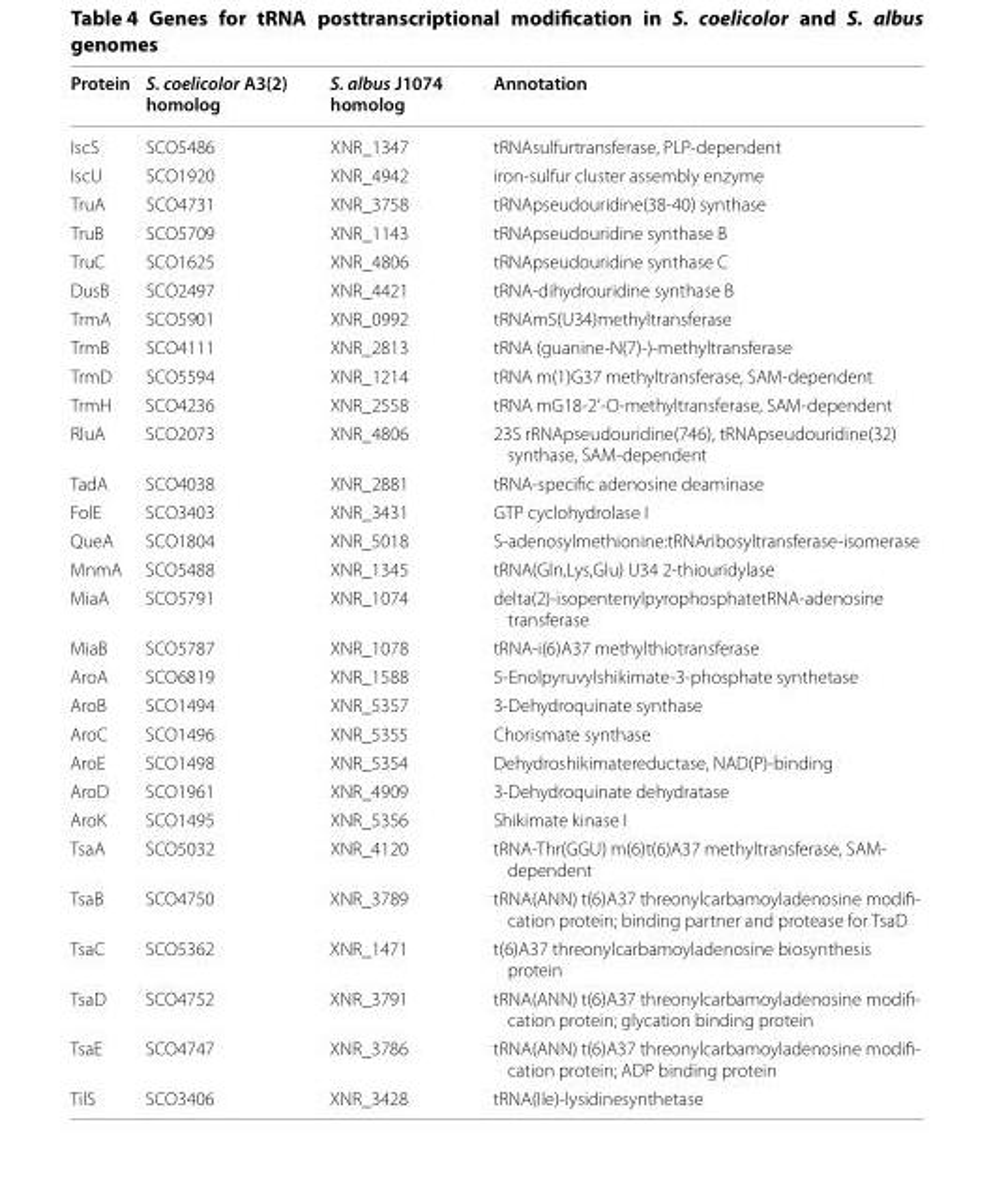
<table><thead><tr><td>Protein</td><td>S. coelicolor A3(2) homolog</td><td>S. albus J1074 homolog</td><td>Annotation</td></tr></thead><tbody><tr><td>IscS</td><td>SCO5486</td><td>XNR_1347</td><td>tRNAsulfurtransferase, PLP-dependent</td></tr><tr><td>IscU</td><td>SCO1920</td><td>XNR_4942</td><td>iron-sulfur cluster assembly enzyme</td></tr><tr><td>TruA</td><td>SCO4731</td><td>XNR_3758</td><td>tRNApseudouridine(38-40) synthase</td></tr><tr><td>TruB</td><td>SCO5709</td><td>XNR_1143</td><td>tRNApseudouridine synthase B</td></tr><tr><td>TruC</td><td>SCO1625</td><td>XNR_4806</td><td>tRNApseudouridine synthase C</td></tr><tr><td>DusB</td><td>SCO2497</td><td>XNR_4421</td><td>tRNA-dihydrouridine synthase B</td></tr><tr><td>TrmA</td><td>SCO5901</td><td>XNR_0992</td><td>tRNAm5(U34)methyltransferase</td></tr><tr><td>TrmB</td><td>SCO4111</td><td>XNR_2813</td><td>tRNA (guanine-N(7)-)-methyltransferase</td></tr><tr><td>TrmD</td><td>SCO5594</td><td>XNR_1214</td><td>tRNA m(1)G37 methyltransferase, SAM-dependent</td></tr><tr><td>TrmH</td><td>SCO4236</td><td>XNR_2558</td><td>tRNA mG18-2’-O-methyltransferase, SAM-dependent</td></tr><tr><td>RluA</td><td>SCO2073</td><td>XNR_4806</td><td>23S rRNApseudouridine(746), tRNApseudouridine(32) synthase, SAM-dependent</td></tr><tr><td>TadA</td><td>SCO4038</td><td>XNR_2881</td><td>tRNA-specific adenosine deaminase</td></tr><tr><td>FolE</td><td>SCO3403</td><td>XNR_3431</td><td>GTP cyclohydrolase I</td></tr><tr><td>QueA</td><td>SCO1804</td><td>XNR_5018</td><td>S-adenosylmethionine:tRNAribosyltransferase-isomerase</td></tr><tr><td>MnmA</td><td>SCO5488</td><td>XNR_1345</td><td>tRNA(Gln,Lys,Glu) U34 2-thiouridylase</td></tr><tr><td>MiaA</td><td>SCO5791</td><td>XNR_1074</td><td>delta(2)-isopentenylpyrophosphatetRNA-adenosine transferase</td></tr><tr><td>MiaB</td><td>SCO5787</td><td>XNR_1078</td><td>tRNA-i(6)A37 methylthiotransferase</td></tr><tr><td>AroA</td><td>SCO6819</td><td>XNR_1588</td><td>5-Enolpyruvylshikimate-3-phosphate synthetase</td></tr><tr><td>AroB</td><td>SCO1494</td><td>XNR_5357</td><td>3-Dehydroquinate synthase</td></tr><tr><td>AroC</td><td>SCO1496</td><td>XNR_5355</td><td>Chorismate synthase</td></tr><tr><td>AroE</td><td>SCO1498</td><td>XNR_5354</td><td>Dehydroshikimatereductase, NAD(P)-binding</td></tr><tr><td>AroD</td><td>SCO1961</td><td>XNR_4909</td><td>3-Dehydroquinate dehydratase</td></tr><tr><td>AroK</td><td>SCO1495</td><td>XNR_5356</td><td>Shikimate kinase I</td></tr><tr><td>TsaA</td><td>SCO5032</td><td>XNR_4120</td><td>tRNA-Thr(GGU) m(6)t(6)A37 methyltransferase, SAM- dependent</td></tr><tr><td>TsaB</td><td>SCO4750</td><td>XNR_3789</td><td>tRNA(ANN) t(6)A37 threonylcarbamoyladenosine modifi- cation protein; binding partner and protease for TsaD</td></tr><tr><td>TsaC</td><td>SCO5362</td><td>XNR_1471</td><td>t(6)A37 threonylcarbamoyladenosine biosynthesis protein</td></tr><tr><td>TsaD</td><td>SCO4752</td><td>XNR_3791</td><td>tRNA(ANN) t(6)A37 threonylcarbamoyladenosine modifi- cation protein; glycation binding protein</td></tr><tr><td>TsaE</td><td>SCO4747</td><td>XNR_3786</td><td>tRNA(ANN) t(6)A37 threonylcarbamoyladenosine modifi- cation protein; ADP binding protein</td></tr><tr><td>TilS</td><td>SCO3406</td><td>XNR_3428</td><td>tRNA(Ile)-lysidinesynthetase</td></tr></tbody></table>